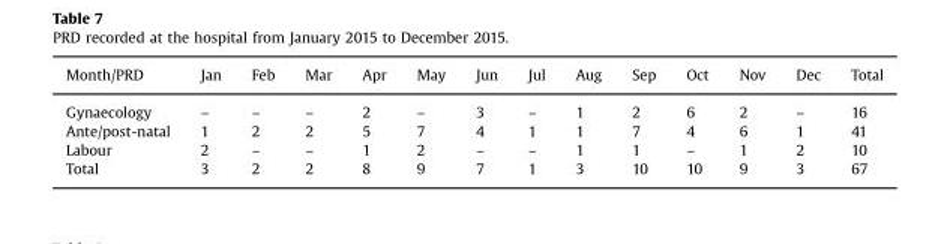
<table><thead><tr><td>Month/PRD</td><td>Jan</td><td>Feb</td><td>Mar</td><td>Apr</td><td>May</td><td>Jun</td><td>Jul</td><td>Aug</td><td>Sep</td><td>Oct</td><td>Nov</td><td>Dec</td><td>Total</td></tr></thead><tbody><tr><td>Gynaecology</td><td>–</td><td>–</td><td>–</td><td>2</td><td>–</td><td>3</td><td>–</td><td>1</td><td>2</td><td>6</td><td>2</td><td>–</td><td>16</td></tr><tr><td>Ante/post-natal</td><td>1</td><td>2</td><td>2</td><td>5</td><td>7</td><td>4</td><td>1</td><td>1</td><td>7</td><td>4</td><td>6</td><td>1</td><td>41</td></tr><tr><td>Labour</td><td>2</td><td>–</td><td>–</td><td>1</td><td>2</td><td>–</td><td>–</td><td>1</td><td>1</td><td>–</td><td>1</td><td>2</td><td>10</td></tr><tr><td>Total</td><td>3</td><td>2</td><td>2</td><td>8</td><td>9</td><td>7</td><td>1</td><td>3</td><td>10</td><td>10</td><td>9</td><td>3</td><td>67</td></tr></tbody></table>